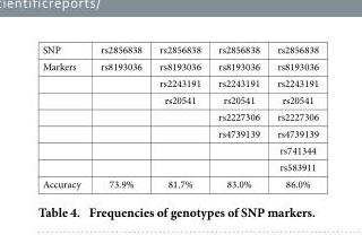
<table><tbody><tr><td>SNP</td><td>rs2856838</td><td>rs2856838</td><td>rs2856838</td><td>rs2856838</td></tr><tr><td rowspan="7">Markers</td><td>rs8193036</td><td>rs8193036</td><td>rs8193036</td><td>rs8193036</td></tr><tr><td></td><td>rs2243191</td><td>rs2243191</td><td>rs2243191</td></tr><tr><td></td><td>rs20541</td><td>rs20541</td><td>rs20541</td></tr><tr><td></td><td></td><td>rs2227306</td><td>rs2227306</td></tr><tr><td></td><td></td><td>rs4739139</td><td>rs4739139</td></tr><tr><td></td><td></td><td></td><td>rs741344</td></tr><tr><td></td><td></td><td></td><td>rs583911</td></tr><tr><td>Accuracy</td><td>73.9%</td><td>81.7%</td><td>83.0%</td><td>86.0%</td></tr></tbody></table>